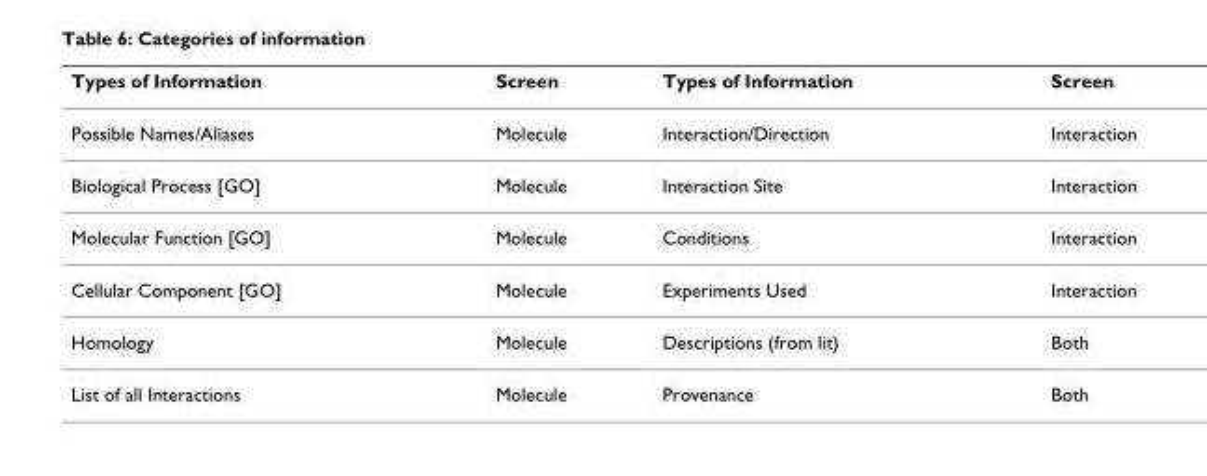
<table><thead><tr><td>Types of Information</td><td>Screen</td><td>Types of Information</td><td>Screen</td></tr></thead><tbody><tr><td>Possible Names/Aliases</td><td>Molecule</td><td>Interaction/Direction</td><td>Interaction</td></tr><tr><td>Biological Process [GO]</td><td>Molecule</td><td>Interaction Site</td><td>Interaction</td></tr><tr><td>Molecular Function [GO]</td><td>Molecule</td><td>Conditions</td><td>Interaction</td></tr><tr><td>Cellular Component [GO]</td><td>Molecule</td><td>Experiments Used</td><td>Interaction</td></tr><tr><td>Homology</td><td>Molecule</td><td>Descriptions (from lit)</td><td>Both</td></tr><tr><td>List of all Interactions</td><td>Molecule</td><td>Provenance</td><td>Both</td></tr></tbody></table>